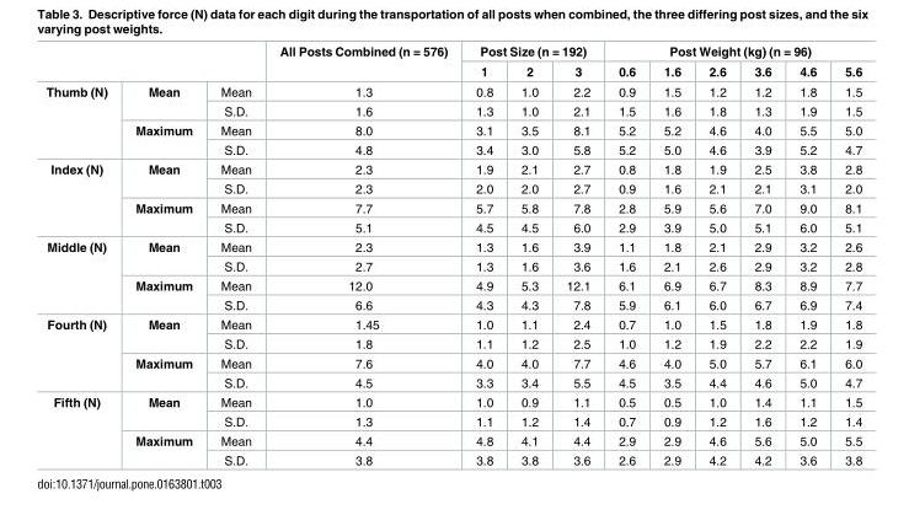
<table><thead><tr><td rowspan="2"></td><td rowspan="2"></td><td rowspan="2"></td><td rowspan="2">All Posts Combined (n = 576)</td><td colspan="3">Post Size (n = 192)</td><td colspan="6">Post Weight (kg) (n = 96)</td></tr><tr><td>1</td><td>2</td><td>3</td><td>0.6</td><td>1.6</td><td>2.6</td><td>3.6</td><td>4.6</td><td>5.6</td></tr></thead><tbody><tr><td rowspan="4">Thumb (N)</td><td rowspan="2">Mean</td><td>Mean</td><td>1.3</td><td>0.8</td><td>1.0</td><td>2.2</td><td>0.9</td><td>1.5</td><td>1.2</td><td>1.2</td><td>1.8</td><td>1.5</td></tr><tr><td>S.D.</td><td>1.6</td><td>1.3</td><td>1.0</td><td>2.1</td><td>1.5</td><td>1.6</td><td>1.8</td><td>1.3</td><td>1.9</td><td>1.5</td></tr><tr><td rowspan="2">Maximum</td><td>Mean</td><td>8.0</td><td>3.1</td><td>3.5</td><td>8.1</td><td>5.2</td><td>5.2</td><td>4.6</td><td>4.0</td><td>5.5</td><td>5.0</td></tr><tr><td>S.D.</td><td>4.8</td><td>3.4</td><td>3.0</td><td>5.8</td><td>5.2</td><td>5.0</td><td>4.6</td><td>3.9</td><td>5.2</td><td>4.7</td></tr><tr><td rowspan="4">Index (N)</td><td rowspan="2">Mean</td><td>Mean</td><td>2.3</td><td>1.9</td><td>2.1</td><td>2.7</td><td>0.8</td><td>1.8</td><td>1.9</td><td>2.5</td><td>3.8</td><td>2.8</td></tr><tr><td>S.D.</td><td>2.3</td><td>2.0</td><td>2.0</td><td>2.7</td><td>0.9</td><td>1.6</td><td>2.1</td><td>2.1</td><td>3.1</td><td>2.0</td></tr><tr><td rowspan="2">Maximum</td><td>Mean</td><td>7.7</td><td>5.7</td><td>5.8</td><td>7.8</td><td>2.8</td><td>5.9</td><td>5.6</td><td>7.0</td><td>9.0</td><td>8.1</td></tr><tr><td>S.D.</td><td>5.1</td><td>4.5</td><td>4.5</td><td>6.0</td><td>2.9</td><td>3.9</td><td>5.0</td><td>5.1</td><td>6.0</td><td>5.1</td></tr><tr><td rowspan="4">Middle (N)</td><td rowspan="2">Mean</td><td>Mean</td><td>2.3</td><td>1.3</td><td>1.6</td><td>3.9</td><td>1.1</td><td>1.8</td><td>2.1</td><td>2.9</td><td>3.2</td><td>2.6</td></tr><tr><td>S.D.</td><td>2.7</td><td>1.3</td><td>1.6</td><td>3.6</td><td>1.6</td><td>2.1</td><td>2.6</td><td>2.9</td><td>3.2</td><td>2.8</td></tr><tr><td rowspan="2">Maximum</td><td>Mean</td><td>12.0</td><td>4.9</td><td>5.3</td><td>12.1</td><td>6.1</td><td>6.9</td><td>6.7</td><td>8.3</td><td>8.9</td><td>7.7</td></tr><tr><td>S.D.</td><td>6.6</td><td>4.3</td><td>4.3</td><td>7.8</td><td>5.9</td><td>6.1</td><td>6.0</td><td>6.7</td><td>6.9</td><td>7.4</td></tr><tr><td rowspan="4">Fourth (N)</td><td rowspan="2">Mean</td><td>Mean</td><td>1.45</td><td>1.0</td><td>1.1</td><td>2.4</td><td>0.7</td><td>1.0</td><td>1.5</td><td>1.8</td><td>1.9</td><td>1.8</td></tr><tr><td>S.D.</td><td>1.8</td><td>1.1</td><td>1.2</td><td>2.5</td><td>1.0</td><td>1.2</td><td>1.9</td><td>2.2</td><td>2.2</td><td>1.9</td></tr><tr><td rowspan="2">Maximum</td><td>Mean</td><td>7.6</td><td>4.0</td><td>4.0</td><td>7.7</td><td>4.6</td><td>4.0</td><td>5.0</td><td>5.7</td><td>6.1</td><td>6.0</td></tr><tr><td>S.D.</td><td>4.5</td><td>3.3</td><td>3.4</td><td>5.5</td><td>4.5</td><td>3.5</td><td>4.4</td><td>4.6</td><td>5.0</td><td>4.7</td></tr><tr><td rowspan="4">Fifth (N)</td><td rowspan="2">Mean</td><td>Mean</td><td>1.0</td><td>1.0</td><td>0.9</td><td>1.1</td><td>0.5</td><td>0.5</td><td>1.0</td><td>1.4</td><td>1.1</td><td>1.5</td></tr><tr><td>S.D.</td><td>1.3</td><td>1.1</td><td>1.2</td><td>1.4</td><td>0.7</td><td>0.9</td><td>1.2</td><td>1.6</td><td>1.2</td><td>1.4</td></tr><tr><td rowspan="2">Maximum</td><td>Mean</td><td>4.4</td><td>4.8</td><td>4.1</td><td>4.4</td><td>2.9</td><td>2.9</td><td>4.6</td><td>5.6</td><td>5.0</td><td>5.5</td></tr><tr><td>S.D.</td><td>3.8</td><td>3.8</td><td>3.8</td><td>3.6</td><td>2.6</td><td>2.9</td><td>4.2</td><td>4.2</td><td>3.6</td><td>3.8</td></tr></tbody></table>